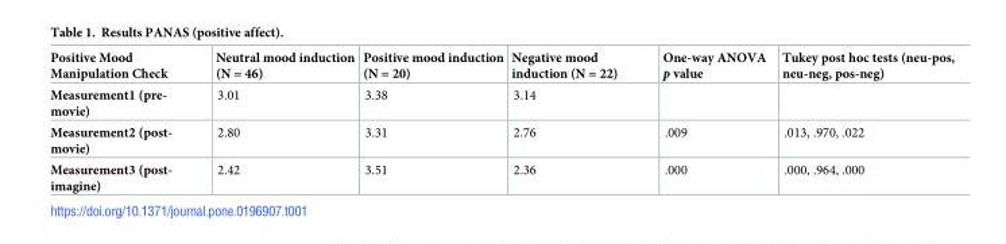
<table><thead><tr><td>Positive Mood Manipulation Check</td><td>Neutral mood induction (N = 46)</td><td>Positive mood induction (N = 20)</td><td>Negative mood induction (N = 22)</td><td>One-way ANOVA p value</td><td>Tukey post hoc tests (neu-pos, neu-neg, pos-neg)</td></tr></thead><tbody><tr><td>Measurement1 (pre- movie)</td><td>3.01</td><td>3.38</td><td>3.14</td><td></td><td></td></tr><tr><td>Measurement2 (post- movie)</td><td>2.80</td><td>3.31</td><td>2.76</td><td>.009</td><td>.013, .970, .022</td></tr><tr><td>Measurement3 (post- imagine)</td><td>2.42</td><td>3.51</td><td>2.36</td><td>.000</td><td>.000, .964, .000</td></tr></tbody></table>